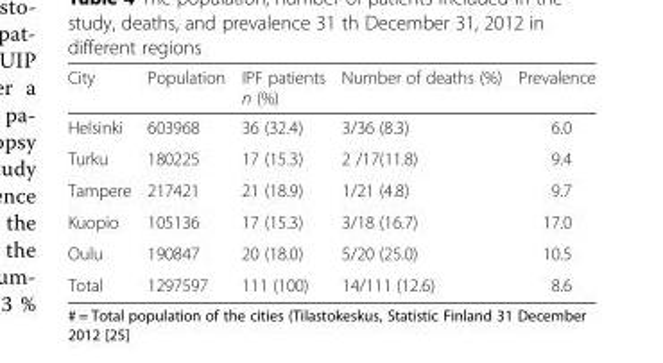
<table><thead><tr><td>City</td><td>Population</td><td>IPF patients n (%)</td><td>Number of deaths (%)</td><td>Prevalence</td></tr></thead><tbody><tr><td>Helsinki</td><td>603968</td><td>36 (32.4)</td><td>3/36 (8.3)</td><td>6.0</td></tr><tr><td>Turku</td><td>180225</td><td>17 (15.3)</td><td>2 /17(11.8)</td><td>9.4</td></tr><tr><td>Tampere</td><td>217421</td><td>21 (18.9)</td><td>1/21 (4.8)</td><td>9.7</td></tr><tr><td>Kuopio</td><td>105136</td><td>17 (15.3)</td><td>3/18 (16.7)</td><td>17.0</td></tr><tr><td>Oulu</td><td>190847</td><td>20 (18.0)</td><td>5/20 (25.0)</td><td>10.5</td></tr><tr><td>Total</td><td>1297597</td><td>111 (100)</td><td>14/111 (12.6)</td><td>8.6</td></tr></tbody></table>